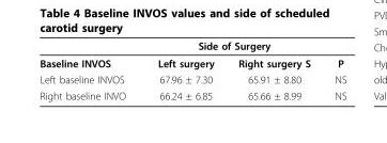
<table><thead><tr><td rowspan="2">Baseline INVOS</td><td colspan="2">Side of Surgery</td><td rowspan="2">P</td></tr><tr><td>Left surgery</td><td>Right surgery S</td></tr></thead><tbody><tr><td>Left baseline INVOS</td><td>67.96 ± 7.30</td><td>65.91 ± 8.80</td><td>NS</td></tr><tr><td>Right baseline INVO</td><td>66.24 ± 6.85</td><td>65.66 ± 8.99</td><td>NS</td></tr></tbody></table>